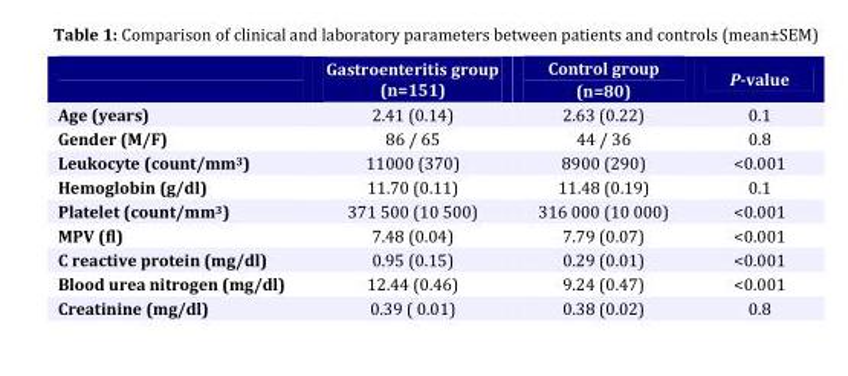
<table><thead><tr><td></td><td>Gastroenteritis group (n=151)</td><td>Control group (n=80)</td><td>P-value</td></tr></thead><tbody><tr><td>Age (years)</td><td>2.41 (0.14)</td><td>2.63 (0.22)</td><td>0.1</td></tr><tr><td>Gender (M/F)</td><td>86 / 65</td><td>44 / 36</td><td>0.8</td></tr><tr><td>Leukocyte (count/mm<sup>3</sup>)</td><td>11000 (370)</td><td>8900 (290)</td><td>&lt;0.001</td></tr><tr><td>Hemoglobin (g/dl)</td><td>11.70 (0.11)</td><td>11.48 (0.19)</td><td>0.1</td></tr><tr><td>Platelet (count/mm<sup>3</sup>)</td><td>371 500 (10 500)</td><td>316 000 (10 000)</td><td>&lt;0.001</td></tr><tr><td>MPV (fl)</td><td>7.48 (0.04)</td><td>7.79 (0.07)</td><td>&lt;0.001</td></tr><tr><td>C reactive protein (mg/dl)</td><td>0.95 (0.15)</td><td>0.29 (0.01)</td><td>&lt;0.001</td></tr><tr><td>Blood urea nitrogen (mg/dl)</td><td>12.44 (0.46)</td><td>9.24 (0.47)</td><td>&lt;0.001</td></tr><tr><td>Creatinine (mg/dl)</td><td>0.39 ( 0.01)</td><td>0.38 (0.02)</td><td>0.8</td></tr></tbody></table>